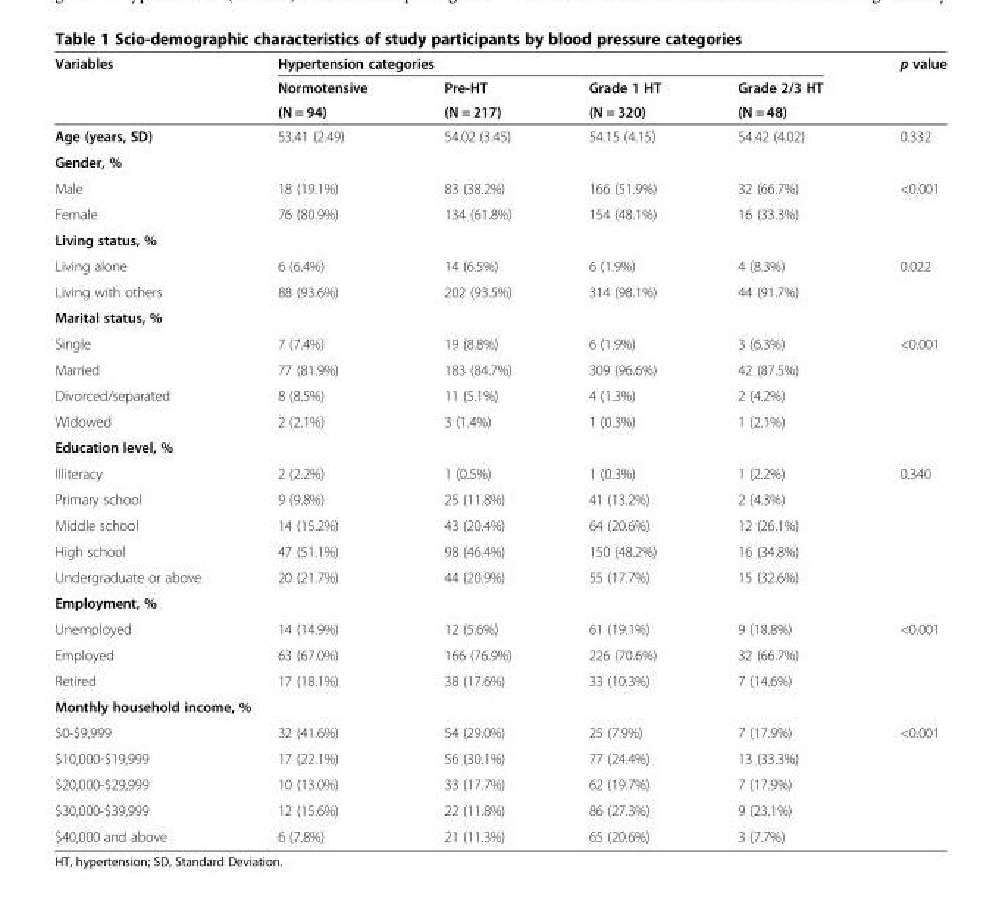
<table><thead><tr><td rowspan="3">Variables</td><td colspan="4">Hypertension categories</td><td rowspan="3">p value</td></tr><tr><td rowspan="2">Normotensive (N = 94)</td><td rowspan="2">Pre-HT (N = 217)</td><td rowspan="2">Grade 1 HT (N = 320)</td><td rowspan="2">Grade 2/3 HT (N = 48)</td></tr><tr></tr></thead><tbody><tr><td>Age (years, SD)</td><td>53.41 (2.49)</td><td>54.02 (3.45)</td><td>54.15 (4.15)</td><td>54.42 (4.02)</td><td>0.332</td></tr><tr><td colspan="6">Gender, %</td></tr><tr><td>Male</td><td>18 (19.1%)</td><td>83 (38.2%)</td><td>166 (51.9%)</td><td>32 (66.7%)</td><td>&lt;0.001</td></tr><tr><td>Female</td><td>76 (80.9%)</td><td>134 (61.8%)</td><td>154 (48.1%)</td><td>16 (33.3%)</td><td></td></tr><tr><td colspan="6">Living status, %</td></tr><tr><td>Living alone</td><td>6 (6.4%)</td><td>14 (6.5%)</td><td>6 (1.9%)</td><td>4 (8.3%)</td><td>0.022</td></tr><tr><td>Living with others</td><td>88 (93.6%)</td><td>202 (93.5%)</td><td>314 (98.1%)</td><td>44 (91.7%)</td><td></td></tr><tr><td colspan="6">Marital status, %</td></tr><tr><td>Single</td><td>7 (7.4%)</td><td>19 (8.8%)</td><td>6 (1.9%)</td><td>3 (6.3%)</td><td>&lt;0.001</td></tr><tr><td>Married</td><td>77 (81.9%)</td><td>183 (84.7%)</td><td>309 (96.6%)</td><td>42 (87.5%)</td><td></td></tr><tr><td>Divorced/separated</td><td>8 (8.5%)</td><td>11 (5.1%)</td><td>4 (1.3%)</td><td>2 (4.2%)</td><td></td></tr><tr><td>Widowed</td><td>2 (2.1%)</td><td>3 (1.4%)</td><td>1 (0.3%)</td><td>1 (2.1%)</td><td></td></tr><tr><td colspan="6">Education level, %</td></tr><tr><td>Illiteracy</td><td>2 (2.2%)</td><td>1 (0.5%)</td><td>1 (0.3%)</td><td>1 (2.2%)</td><td>0.340</td></tr><tr><td>Primary school</td><td>9 (9.8%)</td><td>25 (11.8%)</td><td>41 (13.2%)</td><td>2 (4.3%)</td><td></td></tr><tr><td>Middle school</td><td>14 (15.2%)</td><td>43 (20.4%)</td><td>64 (20.6%)</td><td>12 (26.1%)</td><td></td></tr><tr><td>High school</td><td>47 (51.1%)</td><td>98 (46.4%)</td><td>150 (48.2%)</td><td>16 (34.8%)</td><td></td></tr><tr><td>Undergraduate or above</td><td>20 (21.7%)</td><td>44 (20.9%)</td><td>55 (17.7%)</td><td>15 (32.6%)</td><td></td></tr><tr><td colspan="6">Employment, %</td></tr><tr><td>Unemployed</td><td>14 (14.9%)</td><td>12 (5.6%)</td><td>61 (19.1%)</td><td>9 (18.8%)</td><td>&lt;0.001</td></tr><tr><td>Employed</td><td>63 (67.0%)</td><td>166 (76.9%)</td><td>226 (70.6%)</td><td>32 (66.7%)</td><td></td></tr><tr><td>Retired</td><td>17 (18.1%)</td><td>38 (17.6%)</td><td>33 (10.3%)</td><td>7 (14.6%)</td><td></td></tr><tr><td colspan="6">Monthly household income, %</td></tr><tr><td>$0-$9,999</td><td>32 (41.6%)</td><td>54 (29.0%)</td><td>25 (7.9%)</td><td>7 (17.9%)</td><td>&lt;0.001</td></tr><tr><td>$10,000-$19,999</td><td>17 (22.1%)</td><td>56 (30.1%)</td><td>77 (24.4%)</td><td>13 (33.3%)</td><td></td></tr><tr><td>$20,000-$29,999</td><td>10 (13.0%)</td><td>33 (17.7%)</td><td>62 (19.7%)</td><td>7 (17.9%)</td><td></td></tr><tr><td>$30,000-$39,999</td><td>12 (15.6%)</td><td>22 (11.8%)</td><td>86 (27.3%)</td><td>9 (23.1%)</td><td></td></tr><tr><td>$40,000 and above</td><td>6 (7.8%)</td><td>21 (11.3%)</td><td>65 (20.6%)</td><td>3 (7.7%)</td><td></td></tr></tbody></table>